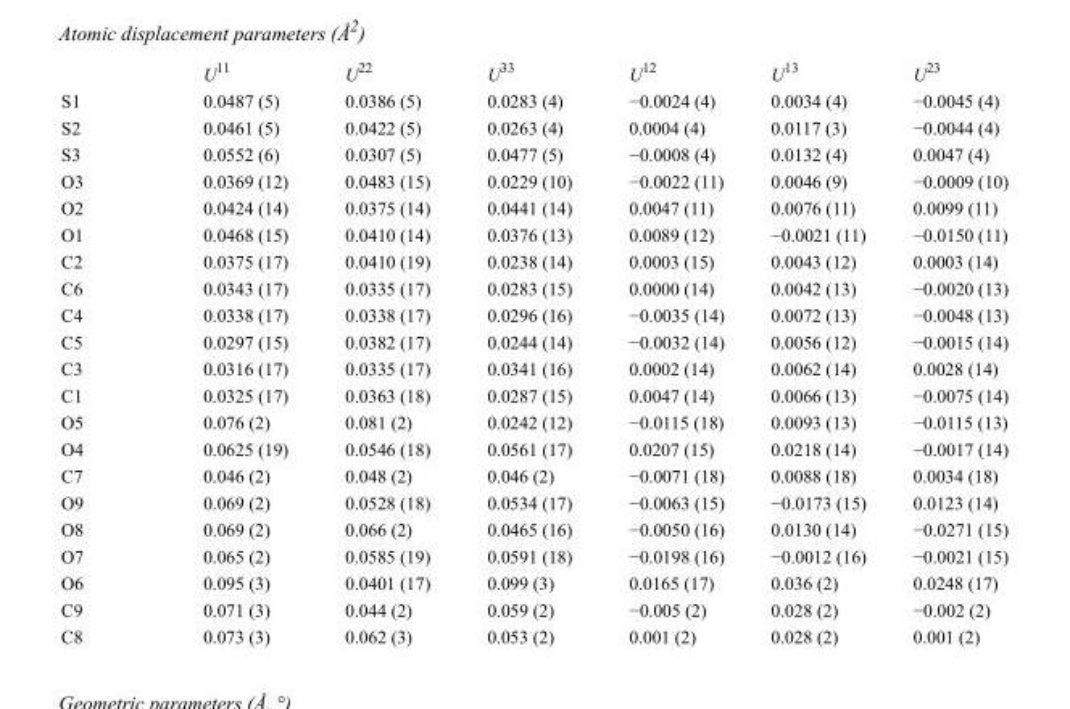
<table><thead><tr><td></td><td>U<sup>11</sup></td><td>U<sup>22</sup></td><td>U<sup>33</sup></td><td>U<sup>12</sup></td><td>U<sup>13</sup></td><td>U<sup>23</sup></td></tr></thead><tbody><tr><td>S1</td><td>0.0487 (5)</td><td>0.0386 (5)</td><td>0.0283 (4)</td><td>−0.0024 (4)</td><td>0.0034 (4)</td><td>−0.0045 (4)</td></tr><tr><td>S2</td><td>0.0461 (5)</td><td>0.0422 (5)</td><td>0.0263 (4)</td><td>0.0004 (4)</td><td>0.0117 (3)</td><td>−0.0044 (4)</td></tr><tr><td>S3</td><td>0.0552 (6)</td><td>0.0307 (5)</td><td>0.0477 (5)</td><td>−0.0008 (4)</td><td>0.0132 (4)</td><td>0.0047 (4)</td></tr><tr><td>O3</td><td>0.0369 (12)</td><td>0.0483 (15)</td><td>0.0229 (10)</td><td>−0.0022 (11)</td><td>0.0046 (9)</td><td>−0.0009 (10)</td></tr><tr><td>O2</td><td>0.0424 (14)</td><td>0.0375 (14)</td><td>0.0441 (14)</td><td>0.0047 (11)</td><td>0.0076 (11)</td><td>0.0099 (11)</td></tr><tr><td>O1</td><td>0.0468 (15)</td><td>0.0410 (14)</td><td>0.0376 (13)</td><td>0.0089 (12)</td><td>−0.0021 (11)</td><td>−0.0150 (11)</td></tr><tr><td>C2</td><td>0.0375 (17)</td><td>0.0410 (19)</td><td>0.0238 (14)</td><td>0.0003 (15)</td><td>0.0043 (12)</td><td>0.0003 (14)</td></tr><tr><td>C6</td><td>0.0343 (17)</td><td>0.0335 (17)</td><td>0.0283 (15)</td><td>0.0000 (14)</td><td>0.0042 (13)</td><td>−0.0020 (13)</td></tr><tr><td>C4</td><td>0.0338 (17)</td><td>0.0338 (17)</td><td>0.0296 (16)</td><td>−0.0035 (14)</td><td>0.0072 (13)</td><td>−0.0048 (13)</td></tr><tr><td>C5</td><td>0.0297 (15)</td><td>0.0382 (17)</td><td>0.0244 (14)</td><td>−0.0032 (14)</td><td>0.0056 (12)</td><td>−0.0015 (14)</td></tr><tr><td>C3</td><td>0.0316 (17)</td><td>0.0335 (17)</td><td>0.0341 (16)</td><td>0.0002 (14)</td><td>0.0062 (14)</td><td>0.0028 (14)</td></tr><tr><td>C1</td><td>0.0325 (17)</td><td>0.0363 (18)</td><td>0.0287 (15)</td><td>0.0047 (14)</td><td>0.0066 (13)</td><td>−0.0075 (14)</td></tr><tr><td>O5</td><td>0.076 (2)</td><td>0.081 (2)</td><td>0.0242 (12)</td><td>−0.0115 (18)</td><td>0.0093 (13)</td><td>−0.0115 (13)</td></tr><tr><td>O4</td><td>0.0625 (19)</td><td>0.0546 (18)</td><td>0.0561 (17)</td><td>0.0207 (15)</td><td>0.0218 (14)</td><td>−0.0017 (14)</td></tr><tr><td>C7</td><td>0.046 (2)</td><td>0.048 (2)</td><td>0.046 (2)</td><td>−0.0071 (18)</td><td>0.0088 (18)</td><td>0.0034 (18)</td></tr><tr><td>O9</td><td>0.069 (2)</td><td>0.0528 (18)</td><td>0.0534 (17)</td><td>−0.0063 (15)</td><td>−0.0173 (15)</td><td>0.0123 (14)</td></tr><tr><td>O8</td><td>0.069 (2)</td><td>0.066 (2)</td><td>0.0465 (16)</td><td>−0.0050 (16)</td><td>0.0130 (14)</td><td>−0.0271 (15)</td></tr><tr><td>O7</td><td>0.065 (2)</td><td>0.0585 (19)</td><td>0.0591 (18)</td><td>−0.0198 (16)</td><td>−0.0012 (16)</td><td>−0.0021 (15)</td></tr><tr><td>O6</td><td>0.095 (3)</td><td>0.0401 (17)</td><td>0.099 (3)</td><td>0.0165 (17)</td><td>0.036 (2)</td><td>0.0248 (17)</td></tr><tr><td>C9</td><td>0.071 (3)</td><td>0.044 (2)</td><td>0.059 (2)</td><td>−0.005 (2)</td><td>0.028 (2)</td><td>−0.002 (2)</td></tr><tr><td>C8</td><td>0.073 (3)</td><td>0.062 (3)</td><td>0.053 (2)</td><td>0.001 (2)</td><td>0.028 (2)</td><td>0.001 (2)</td></tr></tbody></table>